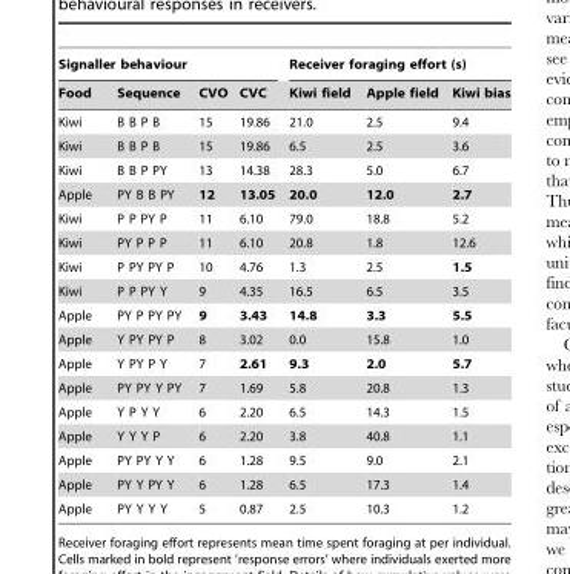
<table><thead><tr><td colspan="4">Signaller behaviour</td><td colspan="3">Receiver foraging effort (s)</td></tr><tr><td>Food</td><td>Sequence</td><td>CVO</td><td>CVC</td><td>Kiwi field</td><td>Apple field</td><td>Kiwi bias</td></tr></thead><tbody><tr><td>Kiwi</td><td>B B P B</td><td>15</td><td>19.86</td><td>21.0</td><td>2.5</td><td>9.4</td></tr><tr><td>Kiwi</td><td>B B P B</td><td>15</td><td>19.86</td><td>6.5</td><td>2.5</td><td>3.6</td></tr><tr><td>Kiwi</td><td>B B P PY</td><td>13</td><td>14.38</td><td>28.3</td><td>5.0</td><td>6.7</td></tr><tr><td>Apple</td><td>PY B B PY</td><td>12</td><td>13.05</td><td>20.0</td><td>12.0</td><td>2.7</td></tr><tr><td>Kiwi</td><td>P P PY P</td><td>11</td><td>6.10</td><td>79.0</td><td>18.8</td><td>5.2</td></tr><tr><td>Kiwi</td><td>PY P P P</td><td>11</td><td>6.10</td><td>20.8</td><td>1.8</td><td>12.6</td></tr><tr><td>Kiwi</td><td>P PY PY P</td><td>10</td><td>4.76</td><td>1.3</td><td>2.5</td><td>1.5</td></tr><tr><td>Kiwi</td><td>P P PY Y</td><td>9</td><td>4.35</td><td>16.5</td><td>6.5</td><td>3.5</td></tr><tr><td>Apple</td><td>PY P PY PY</td><td>9</td><td>3.43</td><td>14.8</td><td>3.3</td><td>5.5</td></tr><tr><td>Apple</td><td>Y PY PY P</td><td>8</td><td>3.02</td><td>0.0</td><td>15.8</td><td>1.0</td></tr><tr><td>Apple</td><td>Y PY P Y</td><td>7</td><td>2.61</td><td>9.3</td><td>2.0</td><td>5.7</td></tr><tr><td>Apple</td><td>PY PY Y PY</td><td>7</td><td>1.69</td><td>5.8</td><td>20.8</td><td>1.3</td></tr><tr><td>Apple</td><td>Y P Y Y</td><td>6</td><td>2.20</td><td>6.5</td><td>14.3</td><td>1.5</td></tr><tr><td>Apple</td><td>Y Y Y P</td><td>6</td><td>2.20</td><td>3.8</td><td>40.8</td><td>1.1</td></tr><tr><td>Apple</td><td>PY PY Y Y</td><td>6</td><td>1.28</td><td>9.5</td><td>9.0</td><td>2.1</td></tr><tr><td>Apple</td><td>PY Y PY Y</td><td>6</td><td>1.28</td><td>6.5</td><td>17.3</td><td>1.4</td></tr><tr><td>Apple</td><td>PY Y Y Y</td><td>5</td><td>0.87</td><td>2.5</td><td>10.3</td><td>1.2</td></tr></tbody></table>